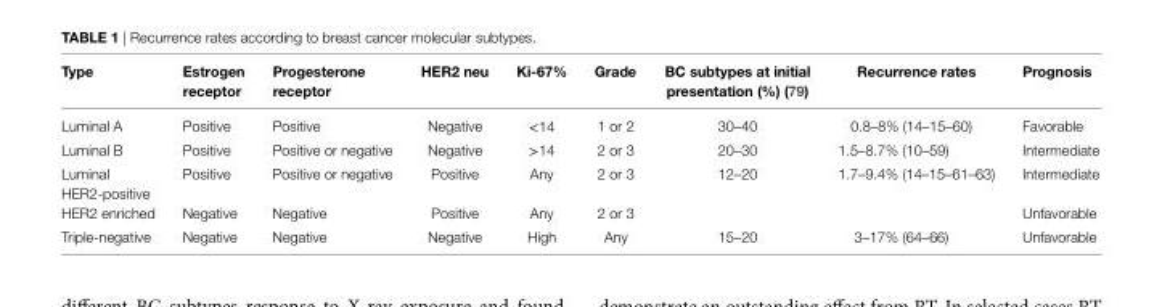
<table><thead><tr><td>Type</td><td>estrogen receptor</td><td>Progesterone receptor</td><td>HeR2 neu</td><td>Ki-67%</td><td>Grade</td><td>BC subtypes at initial presentation (%) (79)</td><td>Recurrence rates</td><td>Prognosis</td></tr></thead><tbody><tr><td>Luminal A</td><td>Positive</td><td>Positive</td><td>Negative</td><td>&lt;14</td><td>1 or 2</td><td>30–40</td><td>0.8–8% (14–15–60)</td><td>Favorable</td></tr><tr><td>Luminal B</td><td>Positive</td><td>Positive or negative</td><td>Negative</td><td>&gt;14</td><td>2 or 3</td><td>20–30</td><td>1.5–8.7% (10–59)</td><td>Intermediate</td></tr><tr><td>Luminal HER2-positive</td><td>Positive</td><td>Positive or negative</td><td>Positive</td><td>Any</td><td>2 or 3</td><td rowspan="2">12–20</td><td rowspan="2">1.7–9.4% (14–15–61–63)</td><td>Intermediate</td></tr><tr><td>HER2 enriched</td><td>Negative</td><td>Negative</td><td>Positive</td><td>Any</td><td>2 or 3</td><td>Unfavorable</td></tr><tr><td>Triple-negative</td><td>Negative</td><td>Negative</td><td>Negative</td><td>High</td><td>Any</td><td>15–20</td><td>3–17% (64–66)</td><td>Unfavorable</td></tr></tbody></table>